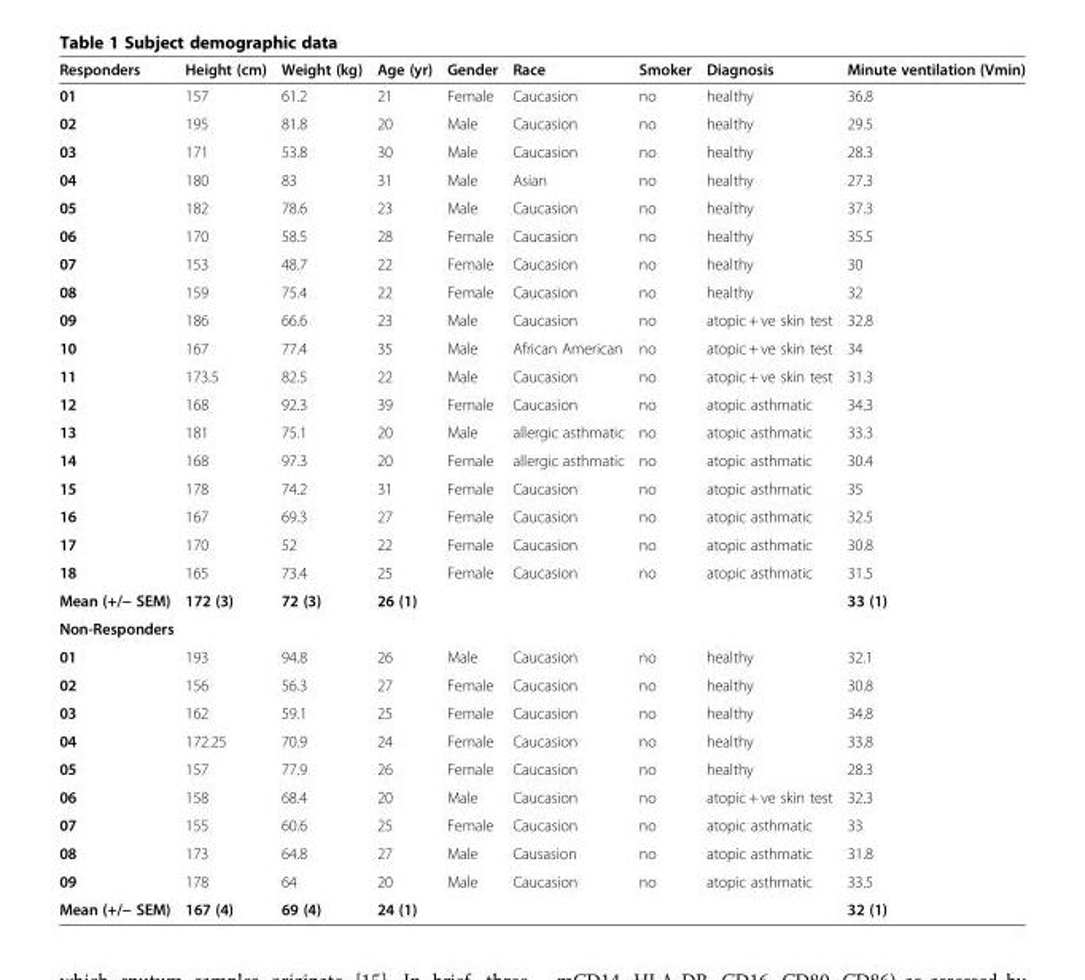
<table><thead><tr><td>Responders</td><td>Height (cm)</td><td>Weight (kg)</td><td>Age (yr)</td><td>Gender</td><td>Race</td><td>Smoker</td><td>Diagnosis</td><td>Minute ventilation (Vmin)</td></tr></thead><tbody><tr><td>01</td><td>157</td><td>61.2</td><td>21</td><td>Female</td><td>Caucasion</td><td>no</td><td>healthy</td><td>36.8</td></tr><tr><td>02</td><td>195</td><td>81.8</td><td>20</td><td>Male</td><td>Caucasion</td><td>no</td><td>healthy</td><td>29.5</td></tr><tr><td>03</td><td>171</td><td>53.8</td><td>30</td><td>Male</td><td>Caucasion</td><td>no</td><td>healthy</td><td>28.3</td></tr><tr><td>04</td><td>180</td><td>83</td><td>31</td><td>Male</td><td>Asian</td><td>no</td><td>healthy</td><td>27.3</td></tr><tr><td>05</td><td>182</td><td>78.6</td><td>23</td><td>Male</td><td>Caucasion</td><td>no</td><td>healthy</td><td>37.3</td></tr><tr><td>06</td><td>170</td><td>58.5</td><td>28</td><td>Female</td><td>Caucasion</td><td>no</td><td>healthy</td><td>35.5</td></tr><tr><td>07</td><td>153</td><td>48.7</td><td>22</td><td>Female</td><td>Caucasion</td><td>no</td><td>healthy</td><td>30</td></tr><tr><td>08</td><td>159</td><td>75.4</td><td>22</td><td>Female</td><td>Caucasion</td><td>no</td><td>healthy</td><td>32</td></tr><tr><td>09</td><td>186</td><td>66.6</td><td>23</td><td>Male</td><td>Caucasion</td><td>no</td><td>atopic + ve skin test</td><td>32.8</td></tr><tr><td>10</td><td>167</td><td>77.4</td><td>35</td><td>Male</td><td>African American</td><td>no</td><td>atopic + ve skin test</td><td>34</td></tr><tr><td>11</td><td>173.5</td><td>82.5</td><td>22</td><td>Male</td><td>Caucasion</td><td>no</td><td>atopic + ve skin test</td><td>31.3</td></tr><tr><td>12</td><td>168</td><td>92.3</td><td>39</td><td>Female</td><td>Caucasion</td><td>no</td><td>atopic asthmatic</td><td>34.3</td></tr><tr><td>13</td><td>181</td><td>75.1</td><td>20</td><td>Male</td><td>allergic asthmatic</td><td>no</td><td>atopic asthmatic</td><td>33.3</td></tr><tr><td>14</td><td>168</td><td>97.3</td><td>20</td><td>Female</td><td>allergic asthmatic</td><td>no</td><td>atopic asthmatic</td><td>30.4</td></tr><tr><td>15</td><td>178</td><td>74.2</td><td>31</td><td>Female</td><td>Caucasion</td><td>no</td><td>atopic asthmatic</td><td>35</td></tr><tr><td>16</td><td>167</td><td>69.3</td><td>27</td><td>Female</td><td>Caucasion</td><td>no</td><td>atopic asthmatic</td><td>32.5</td></tr><tr><td>17</td><td>170</td><td>52</td><td>22</td><td>Female</td><td>Caucasion</td><td>no</td><td>atopic asthmatic</td><td>30.8</td></tr><tr><td>18</td><td>165</td><td>73.4</td><td>25</td><td>Female</td><td>Caucasion</td><td>no</td><td>atopic asthmatic</td><td>31.5</td></tr><tr><td>Mean (+/− SEM)</td><td>172 (3)</td><td>72 (3)</td><td>26 (1)</td><td></td><td></td><td></td><td></td><td>33 (1)</td></tr><tr><td colspan="9">Non-Responders</td></tr><tr><td>01</td><td>193</td><td>94.8</td><td>26</td><td>Male</td><td>Caucasion</td><td>no</td><td>healthy</td><td>32.1</td></tr><tr><td>02</td><td>156</td><td>56.3</td><td>27</td><td>Female</td><td>Caucasion</td><td>no</td><td>healthy</td><td>30.8</td></tr><tr><td>03</td><td>162</td><td>59.1</td><td>25</td><td>Female</td><td>Caucasion</td><td>no</td><td>healthy</td><td>34.8</td></tr><tr><td>04</td><td>172.25</td><td>70.9</td><td>24</td><td>Female</td><td>Caucasion</td><td>no</td><td>healthy</td><td>33.8</td></tr><tr><td>05</td><td>157</td><td>77.9</td><td>26</td><td>Female</td><td>Caucasion</td><td>no</td><td>healthy</td><td>28.3</td></tr><tr><td>06</td><td>158</td><td>68.4</td><td>20</td><td>Male</td><td>Caucasion</td><td>no</td><td>atopic + ve skin test</td><td>32.3</td></tr><tr><td>07</td><td>155</td><td>60.6</td><td>25</td><td>Female</td><td>Caucasion</td><td>no</td><td>atopic asthmatic</td><td>33</td></tr><tr><td>08</td><td>173</td><td>64.8</td><td>27</td><td>Male</td><td>Causasion</td><td>no</td><td>atopic asthmatic</td><td>31.8</td></tr><tr><td>09</td><td>178</td><td>64</td><td>20</td><td>Male</td><td>Caucasion</td><td>no</td><td>atopic asthmatic</td><td>33.5</td></tr><tr><td>Mean (+/− SEM)</td><td>167 (4)</td><td>69 (4)</td><td>24 (1)</td><td></td><td></td><td></td><td></td><td>32 (1)</td></tr></tbody></table>